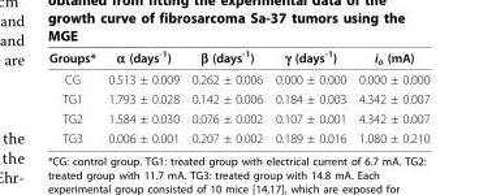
<table><thead><tr><td>Groups*</td><td>α (days<sup>-1</sup>)</td><td>β (days<sup>-1</sup>)</td><td>γ (days<sup>-1</sup>)</td><td>i<sub>o</sub> (mA)</td></tr></thead><tbody><tr><td>CG</td><td>0.513 ± 0.009</td><td>0.262 ± 0.006</td><td>0.000 ± 0.000</td><td>0.000 ± 0.000</td></tr><tr><td>TG1</td><td>1.793 ± 0.028</td><td>0.142 ± 0.006</td><td>0.184 ± 0.003</td><td>4.342 ± 0.007</td></tr><tr><td>TG2</td><td>1.584 ± 0.030</td><td>0.076 ± 0.002</td><td>0.107 ± 0.001</td><td>4.342 ± 0.007</td></tr><tr><td>TG3</td><td>0.006 ± 0.001</td><td>0.207 ± 0.002</td><td>0.189 ± 0.016</td><td>1.080 ± 0.210</td></tr></tbody></table>